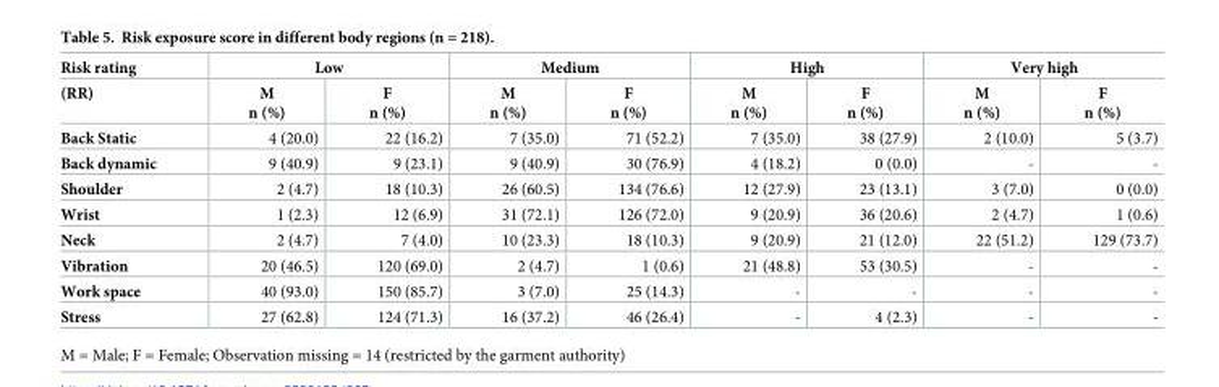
<table><thead><tr><td rowspan="2">Risk rating (RR)</td><td colspan="2">Low</td><td colspan="2">Medium</td><td colspan="2">High</td><td colspan="2">Very high</td></tr><tr><td>M n (%)</td><td>F n (%)</td><td>M n (%)</td><td>F n (%)</td><td>M n (%)</td><td>F n (%)</td><td>M n (%)</td><td>F n (%)</td></tr></thead><tbody><tr><td>Back Static</td><td>4 (20.0)</td><td>22 (16.2)</td><td>7 (35.0)</td><td>71 (52.2)</td><td>7 (35.0)</td><td>38 (27.9)</td><td>2 (10.0)</td><td>5 (3.7)</td></tr><tr><td>Back dynamic</td><td>9 (40.9)</td><td>9 (23.1)</td><td>9 (40.9)</td><td>30 (76.9)</td><td>4 (18.2)</td><td>0 (0.0)</td><td>-</td><td>-</td></tr><tr><td>Shoulder</td><td>2 (4.7)</td><td>18 (10.3)</td><td>26 (60.5)</td><td>134 (76.6)</td><td>12 (27.9)</td><td>23 (13.1)</td><td>3 (7.0)</td><td>0 (0.0)</td></tr><tr><td>Wrist</td><td>1 (2.3)</td><td>12 (6.9)</td><td>31 (72.1)</td><td>126 (72.0)</td><td>9 (20.9)</td><td>36 (20.6)</td><td>2 (4.7)</td><td>1 (0.6)</td></tr><tr><td>Neck</td><td>2 (4.7)</td><td>7 (4.0)</td><td>10 (23.3)</td><td>18 (10.3)</td><td>9 (20.9)</td><td>21 (12.0)</td><td>22 (51.2)</td><td>129 (73.7)</td></tr><tr><td>Vibration</td><td>20 (46.5)</td><td>120 (69.0)</td><td>2 (4.7)</td><td>1 (0.6)</td><td>21 (48.8)</td><td>53 (30.5)</td><td>-</td><td>-</td></tr><tr><td>Work space</td><td>40 (93.0)</td><td>150 (85.7)</td><td>3 (7.0)</td><td>25 (14.3)</td><td>-</td><td>-</td><td>-</td><td>-</td></tr><tr><td>Stress</td><td>27 (62.8)</td><td>124 (71.3)</td><td>16 (37.2)</td><td>46 (26.4)</td><td>-</td><td>4 (2.3)</td><td>-</td><td>-</td></tr></tbody></table>